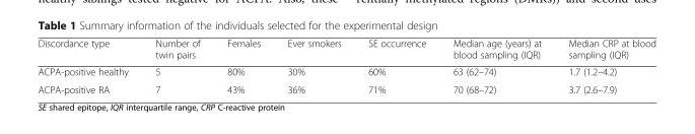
<table><thead><tr><td>Discordance type</td><td>Number of twin pairs</td><td>Females</td><td>Ever smokers</td><td>SE occurrence</td><td>Median age (years) at blood sampling (IQR)</td><td>Median CRP at blood sampling (IQR)</td></tr></thead><tbody><tr><td>ACPA-positive healthy</td><td>5</td><td>80%</td><td>30%</td><td>60%</td><td>63 (62–74)</td><td>1.7 (1.2–4.2)</td></tr><tr><td>ACPA-positive RA</td><td>7</td><td>43%</td><td>36%</td><td>71%</td><td>70 (68–72)</td><td>3.7 (2.6–7.9)</td></tr></tbody></table>